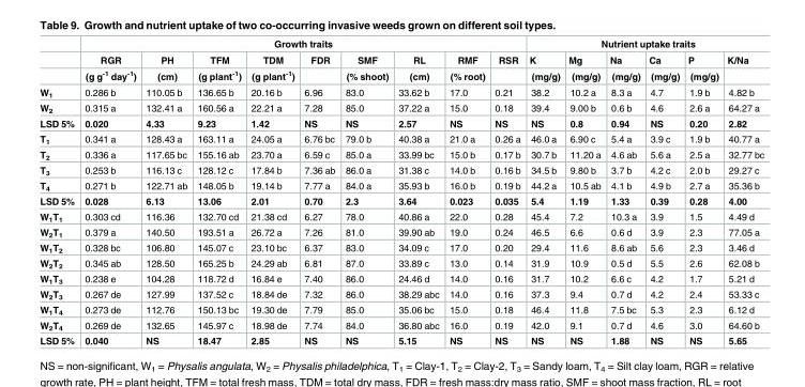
<table><thead><tr><td rowspan="3"></td><td colspan="9">Growth traits</td><td colspan="6">Nutrient uptake traits</td></tr><tr><td rowspan="2">RGR (g g<sup>-1</sup> day<sup>-1</sup>)</td><td rowspan="2">PH (cm)</td><td rowspan="2">TFM (g plant<sup>-1</sup>)</td><td rowspan="2">TDM (g plant<sup>-1</sup>)</td><td rowspan="2">FDR</td><td rowspan="2">SMF (% shoot)</td><td rowspan="2">RL (cm)</td><td rowspan="2">RMF (% root)</td><td rowspan="2">RSR</td><td rowspan="2">K (mg/g)</td><td rowspan="2">Mg (mg/g)</td><td rowspan="2">Na (mg/g)</td><td rowspan="2">Ca (mg/g)</td><td rowspan="2">P (mg/g)</td><td rowspan="2">K/Na</td></tr><tr></tr></thead><tbody><tr><td>W<sub>1</sub></td><td>0.286 b</td><td>110.05 b</td><td>136.65 b</td><td>20.16 b</td><td>6.96</td><td>83.0</td><td>33.62 b</td><td>17.0</td><td>0.21</td><td>38.2</td><td>10.2 a</td><td>8.3 a</td><td>4.7</td><td>1.9 b</td><td>4.82 b</td></tr><tr><td>W<sub>2</sub></td><td>0.315 a</td><td>132.41 a</td><td>160.56 a</td><td>22.21 a</td><td>7.28</td><td>85.0</td><td>37.22 a</td><td>15.0</td><td>0.18</td><td>39.4</td><td>9.00 b</td><td>0.6 b</td><td>4.6</td><td>2.6 a</td><td>64.27 a</td></tr><tr><td>LSD 5%</td><td>0.020</td><td>4.33</td><td>9.23</td><td>1.42</td><td>NS</td><td>NS</td><td>2.57</td><td>NS</td><td>NS</td><td>NS</td><td>0.8</td><td>0.94</td><td>NS</td><td>0.20</td><td>2.82</td></tr><tr><td>T<sub>1</sub></td><td>0.341 a</td><td>128.43 a</td><td>163.11 a</td><td>24.05 a</td><td>6.76 bc</td><td>79.0 b</td><td>40.38 a</td><td>21.0 a</td><td>0.26 a</td><td>46.0 a</td><td>6.90 c</td><td>5.4 a</td><td>3.9 c</td><td>1.9 b</td><td>40.77 a</td></tr><tr><td>T<sub>2</sub></td><td>0.336 a</td><td>117.65 bc</td><td>155.16 ab</td><td>23.70 a</td><td>6.59 c</td><td>85.0 a</td><td>33.99 bc</td><td>15.0 b</td><td>0.17 b</td><td>30.7 b</td><td>11.20 a</td><td>4.6 ab</td><td>5.6 a</td><td>2.5 a</td><td>32.77 bc</td></tr><tr><td>T<sub>3</sub></td><td>0.253 b</td><td>116.13 c</td><td>128.12 c</td><td>17.84 b</td><td>7.36 ab</td><td>86.0 a</td><td>31.38 c</td><td>14.0 b</td><td>0.16 b</td><td>34.5 b</td><td>9.80 b</td><td>3.7 b</td><td>4.2 c</td><td>2.0 b</td><td>29.27 c</td></tr><tr><td>T<sub>4</sub></td><td>0.271 b</td><td>122.71 ab</td><td>148.05 b</td><td>19.14 b</td><td>7.77 a</td><td>84.0 a</td><td>35.93 b</td><td>16.0 b</td><td>0.19 b</td><td>44.2 a</td><td>10.5 ab</td><td>4.1 b</td><td>4.9 b</td><td>2.7 a</td><td>35.36 b</td></tr><tr><td>LSD 5%</td><td>0.028</td><td>6.13</td><td>13.06</td><td>2.01</td><td>0.70</td><td>2.3</td><td>3.64</td><td>0.023</td><td>0.035</td><td>5.4</td><td>1.19</td><td>1.33</td><td>0.39</td><td>0.28</td><td>4.00</td></tr><tr><td>W<sub>1</sub>T<sub>1</sub></td><td>0.303 cd</td><td>116.36</td><td>132.70 cd</td><td>21.38 cd</td><td>6.27</td><td>78.0</td><td>40.86 a</td><td>22.0</td><td>0.28</td><td>45.4</td><td>7.2</td><td>10.3 a</td><td>3.9</td><td>1.5</td><td>4.49 d</td></tr><tr><td>W<sub>2</sub>T<sub>1</sub></td><td>0.379 a</td><td>140.50</td><td>193.51 a</td><td>26.72 a</td><td>7.26</td><td>81.0</td><td>39.90 ab</td><td>19.0</td><td>0.24</td><td>46.5</td><td>6.6</td><td>0.6 d</td><td>3.9</td><td>2.3</td><td>77.05 a</td></tr><tr><td>W<sub>1</sub>T<sub>2</sub></td><td>0.328 bc</td><td>106.80</td><td>145.07 c</td><td>23.10 bc</td><td>6.37</td><td>83.0</td><td>34.09 c</td><td>17.0</td><td>0.20</td><td>29.4</td><td>11.6</td><td>8.6 ab</td><td>5.6</td><td>2.3</td><td>3.46 d</td></tr><tr><td>W<sub>2</sub>T<sub>2</sub></td><td>0.345 ab</td><td>128.50</td><td>165.25 b</td><td>24.29 ab</td><td>6.81</td><td>87.0</td><td>33.89 c</td><td>13.0</td><td>0.14</td><td>31.9</td><td>10.9</td><td>0.5 d</td><td>5.5</td><td>2.6</td><td>62.08 b</td></tr><tr><td>W<sub>1</sub>T<sub>3</sub></td><td>0.238 e</td><td>104.28</td><td>118.72 d</td><td>16.84 e</td><td>7.40</td><td>86.0</td><td>24.46 d</td><td>14.0</td><td>0.16</td><td>31.7</td><td>10.2</td><td>6.6 c</td><td>4.2</td><td>1.7</td><td>5.21 d</td></tr><tr><td>W<sub>2</sub>T<sub>3</sub></td><td>0.267 de</td><td>127.99</td><td>137.52 c</td><td>18.84 de</td><td>7.32</td><td>86.0</td><td>38.29 abc</td><td>14.0</td><td>0.16</td><td>37.3</td><td>9.4</td><td>0.7 d</td><td>4.2</td><td>2.4</td><td>53.33 c</td></tr><tr><td>W<sub>1</sub>T<sub>4</sub></td><td>0.273 de</td><td>112.76</td><td>150.13 bc</td><td>19.30 de</td><td>7.79</td><td>85.0</td><td>35.06 bc</td><td>15.0</td><td>0.18</td><td>46.4</td><td>11.8</td><td>7.5 bc</td><td>5.3</td><td>2.3</td><td>6.12 d</td></tr><tr><td>W<sub>2</sub>T<sub>4</sub></td><td>0.269 de</td><td>132.65</td><td>145.97 c</td><td>18.98 de</td><td>7.74</td><td>84.0</td><td>36.80 abc</td><td>16.0</td><td>0.19</td><td>42.0</td><td>9.1</td><td>0.7 d</td><td>4.6</td><td>3.0</td><td>64.60 b</td></tr><tr><td>LSD 5%</td><td>0.040</td><td>NS</td><td>18.47</td><td>2.85</td><td>NS</td><td>NS</td><td>5.15</td><td>NS</td><td>NS</td><td>NS</td><td>NS</td><td>1.88</td><td>NS</td><td>NS</td><td>5.65</td></tr></tbody></table>